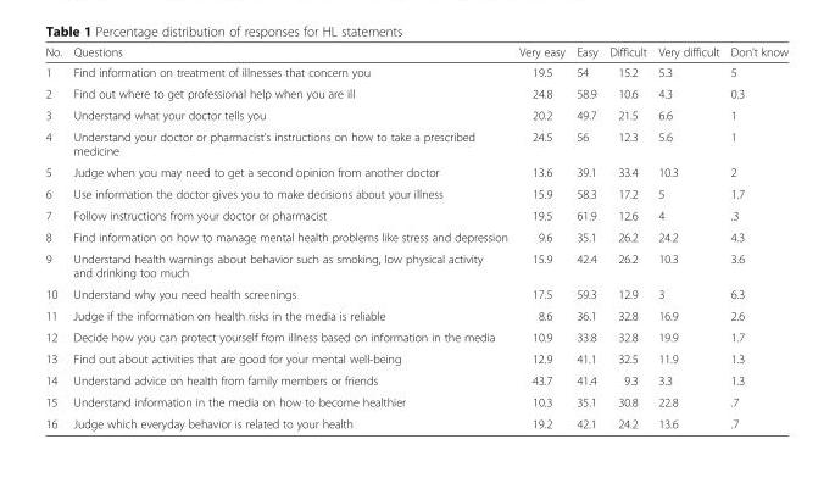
<table><thead><tr><td>No.</td><td>Questions</td><td>Very easy</td><td>Easy</td><td>Difficult</td><td>Very difficult</td><td>Don’t know</td></tr></thead><tbody><tr><td>1</td><td>Find information on treatment of illnesses that concern you</td><td>19.5</td><td>54</td><td>15.2</td><td>5.3</td><td>5</td></tr><tr><td>2</td><td>Find out where to get professional help when you are ill</td><td>24.8</td><td>58.9</td><td>10.6</td><td>4.3</td><td>0.3</td></tr><tr><td>3</td><td>Understand what your doctor tells you</td><td>20.2</td><td>49.7</td><td>21.5</td><td>6.6</td><td>1</td></tr><tr><td>4</td><td>Understand your doctor or pharmacist’s instructions on how to take a prescribed medicine</td><td>24.5</td><td>56</td><td>12.3</td><td>5.6</td><td>1</td></tr><tr><td>5</td><td>Judge when you may need to get a second opinion from another doctor</td><td>13.6</td><td>39.1</td><td>33.4</td><td>10.3</td><td>2</td></tr><tr><td>6</td><td>Use information the doctor gives you to make decisions about your illness</td><td>15.9</td><td>58.3</td><td>17.2</td><td>5</td><td>1.7</td></tr><tr><td>7</td><td>Follow instructions from your doctor or pharmacist</td><td>19.5</td><td>61.9</td><td>12.6</td><td>4</td><td>.3</td></tr><tr><td>8</td><td>Find information on how to manage mental health problems like stress and depression</td><td>9.6</td><td>35.1</td><td>26.2</td><td>24.2</td><td>4.3</td></tr><tr><td>9</td><td>Understand health warnings about behavior such as smoking, low physical activity and drinking too much</td><td>15.9</td><td>42.4</td><td>26.2</td><td>10.3</td><td>3.6</td></tr><tr><td>10</td><td>Understand why you need health screenings</td><td>17.5</td><td>59.3</td><td>12.9</td><td>3</td><td>6.3</td></tr><tr><td>11</td><td>Judge if the information on health risks in the media is reliable</td><td>8.6</td><td>36.1</td><td>32.8</td><td>16.9</td><td>2.6</td></tr><tr><td>12</td><td>Decide how you can protect yourself from illness based on information in the media</td><td>10.9</td><td>33.8</td><td>32.8</td><td>19.9</td><td>1.7</td></tr><tr><td>13</td><td>Find out about activities that are good for your mental well-being</td><td>12.9</td><td>41.1</td><td>32.5</td><td>11.9</td><td>1.3</td></tr><tr><td>14</td><td>Understand advice on health from family members or friends</td><td>43.7</td><td>41.4</td><td>9.3</td><td>3.3</td><td>1.3</td></tr><tr><td>15</td><td>Understand information in the media on how to become healthier</td><td>10.3</td><td>35.1</td><td>30.8</td><td>22.8</td><td>.7</td></tr><tr><td>16</td><td>Judge which everyday behavior is related to your health</td><td>19.2</td><td>42.1</td><td>24.2</td><td>13.6</td><td>.7</td></tr></tbody></table>